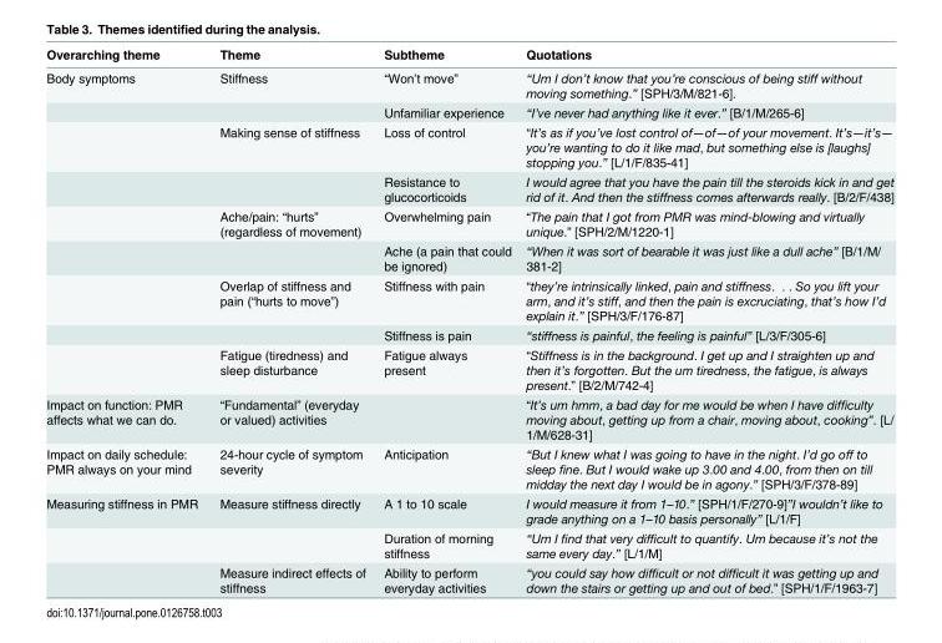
<table><thead><tr><td>Overarching theme</td><td>Theme</td><td>Subtheme</td><td>Quotations</td></tr></thead><tbody><tr><td rowspan="9">Body symptoms</td><td>Stiffness</td><td>“Won’t move”</td><td>“Um I don’t know that you’re conscious of being stiff without moving something.” [SPH/3/M/821-6].</td></tr><tr><td></td><td>Unfamiliar experience</td><td>“I’ve never had anything like it ever.” [B/1/M/265-6]</td></tr><tr><td>Making sense of stiffness</td><td>Loss of control</td><td>“It’s as if you’ve lost control of—of—of your movement. It’s—it’s— you’re wanting to do it like mad, but something else is [laughs] stopping you.” [L/1/F/835-41]</td></tr><tr><td></td><td>Resistance to glucocorticoids</td><td>I would agree that you have the pain till the steroids kick in and get rid of it. And then the stiffness comes afterwards really. [B/2/F/438]</td></tr><tr><td>Ache/pain: “hurts” (regardless of movement)</td><td>Overwhelming pain</td><td>“The pain that I got from PMR was mind-blowing and virtually unique.” [SPH/2/M/1220-1]</td></tr><tr><td></td><td>Ache (a pain that could be ignored)</td><td>“When it was sort of bearable it was just like a dull ache” [B/1/M/ 381-2]</td></tr><tr><td>Overlap of stiffness and pain (“hurts to move”)</td><td>Stiffness with pain</td><td>“they’re intrinsically linked, pain and stiffness. . . So you lift your arm, and it’s stiff, and then the pain is excruciating, that’s how I’d explain it.” [SPH/3/F/176-87]</td></tr><tr><td></td><td>Stiffness is pain</td><td>“stiffness is painful, the feeling is painful” [L/3/F/305-6]</td></tr><tr><td>Fatigue (tiredness) and sleep disturbance</td><td>Fatigue always present</td><td>“Stiffness is in the background. I get up and I straighten up and then it’s forgotten. But the um tiredness, the fatigue, is always present.” [B/2/M/742-4]</td></tr><tr><td>Impact on function: PMR affects what we can do.</td><td>“Fundamental” (everyday or valued) activities</td><td></td><td>“It’s um hmm, a bad day for me would be when I have difficulty moving about, getting up from a chair, moving about, cooking”. [L/ 1/M/628-31]</td></tr><tr><td>Impact on daily schedule: PMR always on your mind</td><td>24-hour cycle of symptom severity</td><td>Anticipation</td><td>“But I knew what I was going to have in the night. I’d go off to sleep fine. But I would wake up 3.00 and 4.00, from then on till midday the next day I would be in agony.” [SPH/3/F/378-89]</td></tr><tr><td rowspan="3">Measuring stiffness in PMR</td><td>Measure stiffness directly</td><td>A 1 to 10 scale</td><td>I would measure it from 1–10.” [SPH/1/F/270-9]”I wouldn’t like to grade anything on a 1–10 basis personally” [L/1/F]</td></tr><tr><td></td><td>Duration of morning stiffness</td><td>“Um I find that very difficult to quantify. Um because it’s not the same every day.” [L/1/M]</td></tr><tr><td>Measure indirect effects of stiffness</td><td>Ability to perform everyday activities</td><td>“you could say how difficult or not difficult it was getting up and down the stairs or getting up and out of bed.” [SPH/1/F/1963-7]</td></tr></tbody></table>